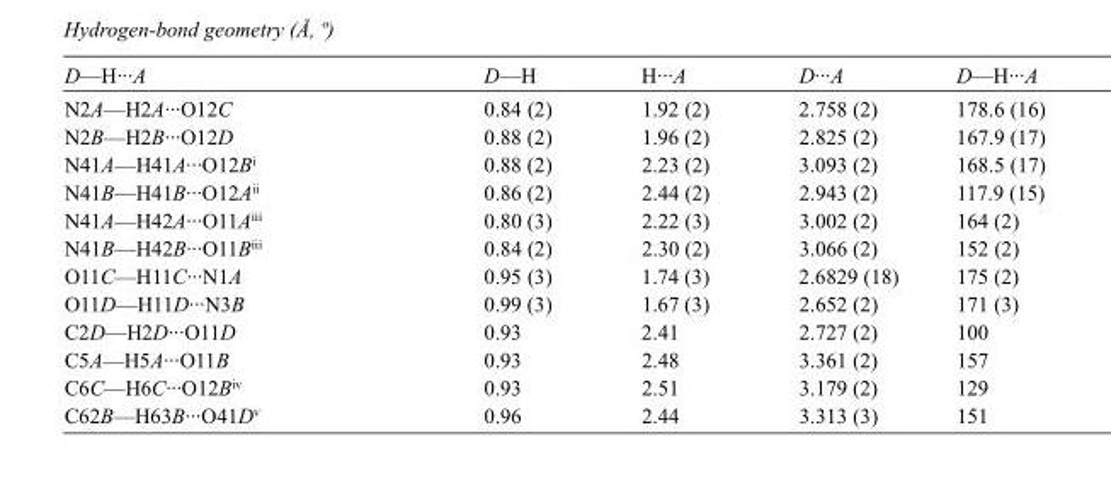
<table><tbody><tr><td>D—H···A</td><td>D—H</td><td>H···A</td><td>D···A</td><td>D—H···A</td></tr><tr><td>N2A—H2A···O12C</td><td>0.84 (2)</td><td>1.92 (2)</td><td>2.758 (2)</td><td>178.6 (16)</td></tr><tr><td>N2B—H2B···O12D</td><td>0.88 (2)</td><td>1.96 (2)</td><td>2.825 (2)</td><td>167.9 (17)</td></tr><tr><td>N41A—H41A···O12B<sup>i</sup></td><td>0.88 (2)</td><td>2.23 (2)</td><td>3.093 (2)</td><td>168.5 (17)</td></tr><tr><td>N41B—H41B···O12A<sup>ii</sup></td><td>0.86 (2)</td><td>2.44 (2)</td><td>2.943 (2)</td><td>117.9 (15)</td></tr><tr><td>N41A—H42A···O11A<sup>iii</sup></td><td>0.80 (3)</td><td>2.22 (3)</td><td>3.002 (2)</td><td>164 (2)</td></tr><tr><td>N41B—H42B···O11B<sup>iii</sup></td><td>0.84 (2)</td><td>2.30 (2)</td><td>3.066 (2)</td><td>152 (2)</td></tr><tr><td>O11C—H11C···N1A</td><td>0.95 (3)</td><td>1.74 (3)</td><td>2.6829 (18)</td><td>175 (2)</td></tr><tr><td>O11D—H11D···N3B</td><td>0.99 (3)</td><td>1.67 (3)</td><td>2.652 (2)</td><td>171 (3)</td></tr><tr><td>C2D—H2D···O11D</td><td>0.93</td><td>2.41</td><td>2.727 (2)</td><td>100</td></tr><tr><td>C5A—H5A···O11B</td><td>0.93</td><td>2.48</td><td>3.361 (2)</td><td>157</td></tr><tr><td>C6C—H6C···O12B<sup>iv</sup></td><td>0.93</td><td>2.51</td><td>3.179 (2)</td><td>129</td></tr><tr><td>C62B—H63B···O41D<sup>v</sup></td><td>0.96</td><td>2.44</td><td>3.313 (3)</td><td>151</td></tr></tbody></table>